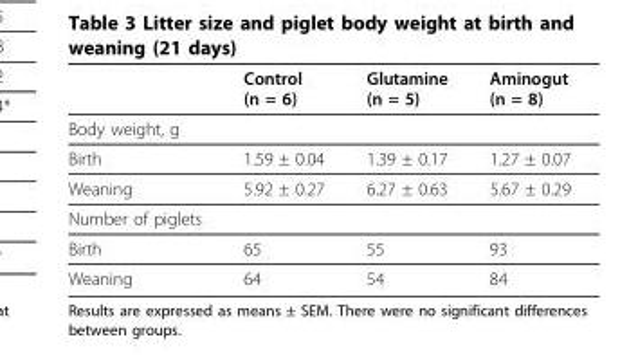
<table><thead><tr><td></td><td>Control (n = 6)</td><td>Glutamine (n = 5)</td><td>Aminogut (n = 8)</td></tr></thead><tbody><tr><td colspan="4">Body weight, g</td></tr><tr><td>Birth</td><td>1.59 ± 0.04</td><td>1.39 ± 0.17</td><td>1.27 ± 0.07</td></tr><tr><td>Weaning</td><td>5.92 ± 0.27</td><td>6.27 ± 0.63</td><td>5.67 ± 0.29</td></tr><tr><td colspan="4">Number of piglets</td></tr><tr><td>Birth</td><td>65</td><td>55</td><td>93</td></tr><tr><td>Weaning</td><td>64</td><td>54</td><td>84</td></tr></tbody></table>